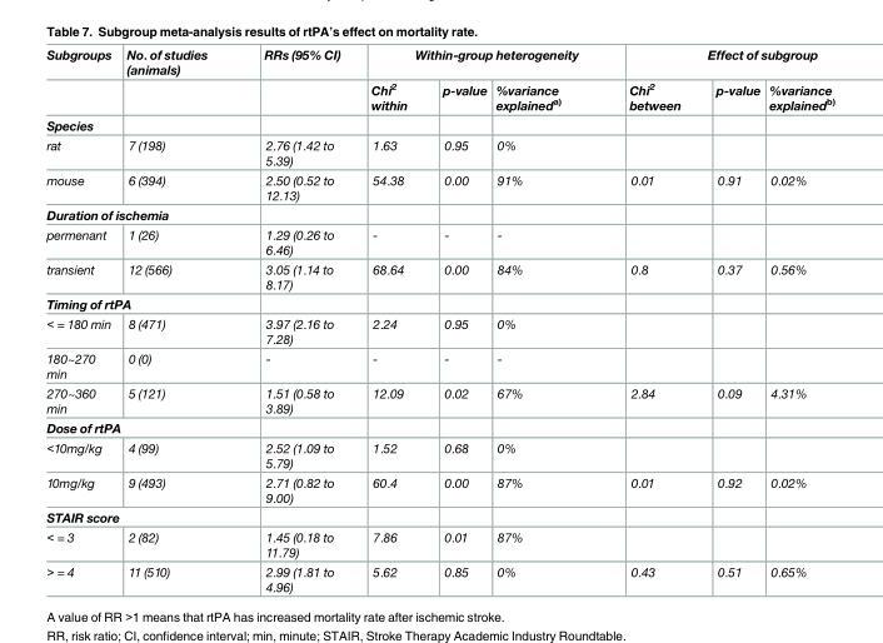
<table><thead><tr><td rowspan="2">Subgroups</td><td rowspan="2">No. of studies (animals)</td><td rowspan="2">RRs (95% CI)</td><td colspan="3">Within-group heterogeneity</td><td colspan="3">Effect of subgroup</td></tr><tr><td>Chi<sup>2</sup> within</td><td>p-value</td><td>%variance explained<sup>a)</sup></td><td>Chi<sup>2</sup> between</td><td>p-value</td><td>%variance explained<sup>b)</sup></td></tr></thead><tbody><tr><td colspan="9">Species</td></tr><tr><td>rat</td><td>7 (198)</td><td>2.76 (1.42 to 5.39)</td><td>1.63</td><td>0.95</td><td>0%</td><td></td><td></td><td></td></tr><tr><td>mouse</td><td>6 (394)</td><td>2.50 (0.52 to 12.13)</td><td>54.38</td><td>0.00</td><td>91%</td><td>0.01</td><td>0.91</td><td>0.02%</td></tr><tr><td colspan="9">Duration of ischemia</td></tr><tr><td>permenant</td><td>1 (26)</td><td>1.29 (0.26 to 6.46)</td><td>-</td><td>-</td><td>-</td><td></td><td></td><td></td></tr><tr><td>transient</td><td>12 (566)</td><td>3.05 (1.14 to 8.17)</td><td>68.64</td><td>0.00</td><td>84%</td><td>0.8</td><td>0.37</td><td>0.56%</td></tr><tr><td colspan="9">Timing of rtPA</td></tr><tr><td>&lt; = 180 min</td><td>8 (471)</td><td>3.97 (2.16 to 7.28)</td><td>2.24</td><td>0.95</td><td>0%</td><td></td><td></td><td></td></tr><tr><td>180~270 min</td><td>0 (0)</td><td>-</td><td>-</td><td>-</td><td>-</td><td></td><td></td><td></td></tr><tr><td>270~360 min</td><td>5 (121)</td><td>1.51 (0.58 to 3.89)</td><td>12.09</td><td>0.02</td><td>67%</td><td>2.84</td><td>0.09</td><td>4.31%</td></tr><tr><td colspan="9">Dose of rtPA</td></tr><tr><td>&lt;10mg/kg</td><td>4 (99)</td><td>2.52 (1.09 to 5.79)</td><td>1.52</td><td>0.68</td><td>0%</td><td></td><td></td><td></td></tr><tr><td>10mg/kg</td><td>9 (493)</td><td>2.71 (0.82 to 9.00)</td><td>60.4</td><td>0.00</td><td>87%</td><td>0.01</td><td>0.92</td><td>0.02%</td></tr><tr><td colspan="9">STAIR score</td></tr><tr><td>&lt; = 3</td><td>2 (82)</td><td>1.45 (0.18 to 11.79)</td><td>7.86</td><td>0.01</td><td>87%</td><td></td><td></td><td></td></tr><tr><td>&gt; = 4</td><td>11 (510)</td><td>2.99 (1.81 to 4.96)</td><td>5.62</td><td>0.85</td><td>0%</td><td>0.43</td><td>0.51</td><td>0.65%</td></tr></tbody></table>